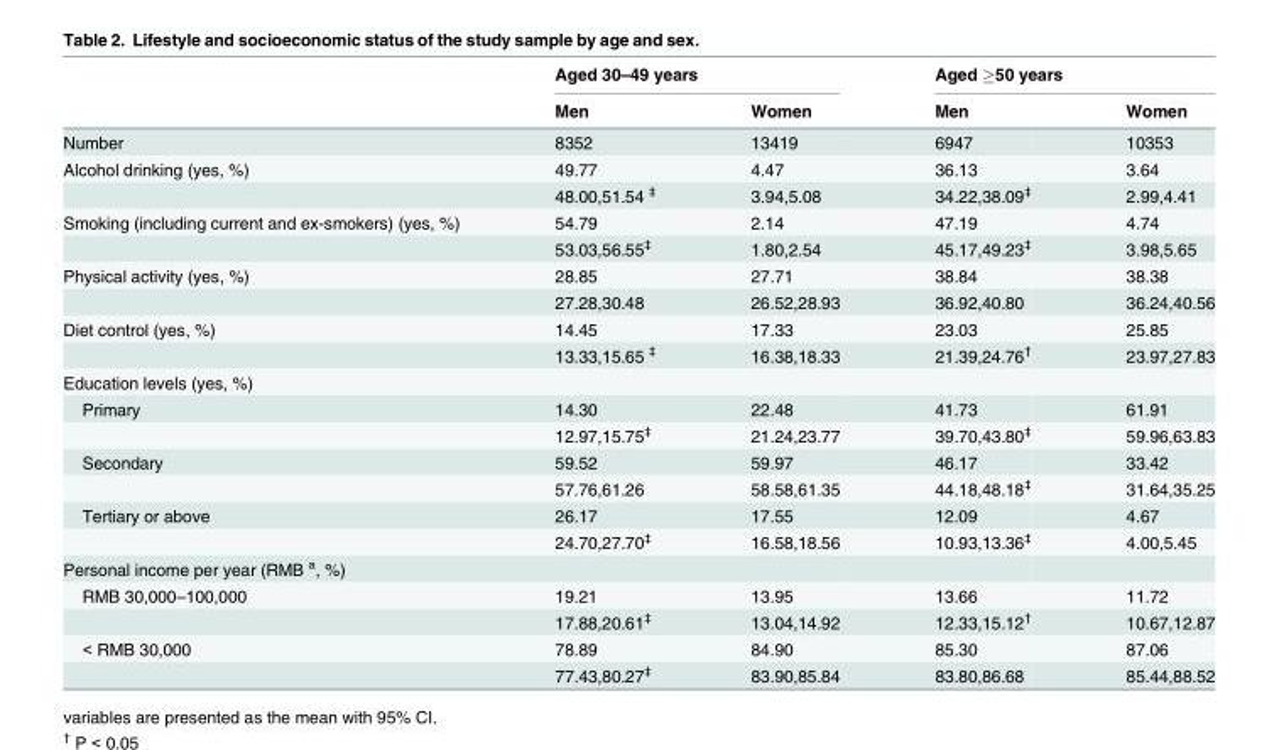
<table><thead><tr><td rowspan="2"></td><td colspan="2">Aged 30–49 years</td><td colspan="2">Aged ≥50 years</td></tr><tr><td>Men</td><td>Women</td><td>Men</td><td>Women</td></tr></thead><tbody><tr><td>Number</td><td>8352</td><td>13419</td><td>6947</td><td>10353</td></tr><tr><td rowspan="2">Alcohol drinking (yes, %)</td><td>49.77</td><td>4.47</td><td>36.13</td><td>3.64</td></tr><tr><td>48.00,51.54 <sup>‡</sup></td><td>3.94,5.08</td><td>34.22,38.09<sup>‡</sup></td><td>2.99,4.41</td></tr><tr><td rowspan="2">Smoking (including current and ex-smokers) (yes, %)</td><td>54.79</td><td>2.14</td><td>47.19</td><td>4.74</td></tr><tr><td>53.03,56.55<sup>‡</sup></td><td>1.80,2.54</td><td>45.17,49.23<sup>‡</sup></td><td>3.98,5.65</td></tr><tr><td rowspan="2">Physical activity (yes, %)</td><td>28.85</td><td>27.71</td><td>38.84</td><td>38.38</td></tr><tr><td>27.28,30.48</td><td>26.52,28.93</td><td>36.92,40.80</td><td>36.24,40.56</td></tr><tr><td rowspan="2">Diet control (yes, %)</td><td>14.45</td><td>17.33</td><td>23.03</td><td>25.85</td></tr><tr><td>13.33,15.65 <sup>‡</sup></td><td>16.38,18.33</td><td>21.39,24.76<sup>†</sup></td><td>23.97,27.83</td></tr><tr><td colspan="5">Education levels (yes, %)</td></tr><tr><td rowspan="2">Primary</td><td>14.30</td><td>22.48</td><td>41.73</td><td>61.91</td></tr><tr><td>12.97,15.75<sup>‡</sup></td><td>21.24,23.77</td><td>39.70,43.80<sup>‡</sup></td><td>59.96,63.83</td></tr><tr><td rowspan="2">Secondary</td><td>59.52</td><td>59.97</td><td>46.17</td><td>33.42</td></tr><tr><td>57.76,61.26</td><td>58.58,61.35</td><td>44.18,48.18<sup>‡</sup></td><td>31.64,35.25</td></tr><tr><td rowspan="2">Tertiary or above</td><td>26.17</td><td>17.55</td><td>12.09</td><td>4.67</td></tr><tr><td>24.70,27.70<sup>‡</sup></td><td>16.58,18.56</td><td>10.93,13.36<sup>‡</sup></td><td>4.00,5.45</td></tr><tr><td colspan="5">Personal income per year (RMB <sup>a</sup>, %)</td></tr><tr><td rowspan="2">RMB 30,000–100,000</td><td>19.21</td><td>13.95</td><td>13.66</td><td>11.72</td></tr><tr><td>17.88,20.61<sup>‡</sup></td><td>13.04,14.92</td><td>12.33,15.12<sup>†</sup></td><td>10.67,12.87</td></tr><tr><td rowspan="2">&lt; RMB 30,000</td><td>78.89</td><td>84.90</td><td>85.30</td><td>87.06</td></tr><tr><td>77.43,80.27<sup>‡</sup></td><td>83.90,85.84</td><td>83.80,86.68</td><td>85.44,88.52</td></tr></tbody></table>